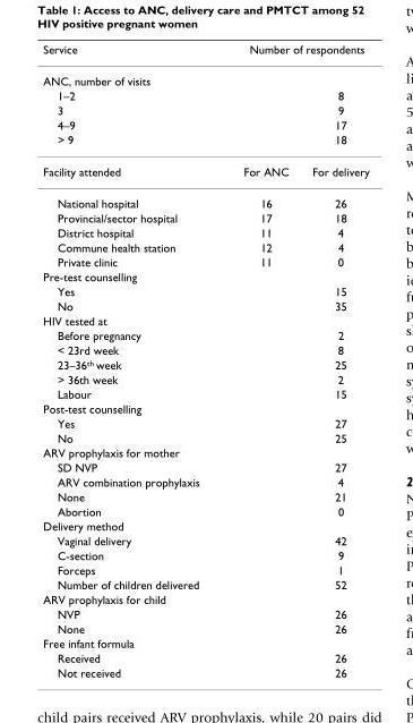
<table><thead><tr><td rowspan="2">Service ANC, number of visits</td><td colspan="2">Number of respondents</td></tr><tr><td></td><td></td></tr></thead><tbody><tr><td>1–2</td><td></td><td>8</td></tr><tr><td>3</td><td></td><td>9</td></tr><tr><td>4–9</td><td></td><td>17</td></tr><tr><td>&gt; 9</td><td></td><td>18</td></tr><tr><td>Facility attended</td><td>For ANC</td><td>For delivery</td></tr><tr><td>National hospital</td><td>16</td><td>26</td></tr><tr><td>Provincial/sector hospital</td><td>17</td><td>18</td></tr><tr><td>District hospital</td><td>11</td><td>4</td></tr><tr><td>Commune health station</td><td>12</td><td>4</td></tr><tr><td>Private clinic</td><td>11</td><td>0</td></tr><tr><td colspan="3">Pre-test counselling</td></tr><tr><td>Yes</td><td></td><td>15</td></tr><tr><td>No</td><td></td><td>35</td></tr><tr><td colspan="3">HIV tested at</td></tr><tr><td>Before pregnancy</td><td></td><td>2</td></tr><tr><td>&lt; 23rd week</td><td></td><td>8</td></tr><tr><td>23–36<sup>th</sup> week</td><td></td><td>25</td></tr><tr><td>&gt; 36th week</td><td></td><td>2</td></tr><tr><td>Labour</td><td></td><td>15</td></tr><tr><td colspan="3">Post-test counselling</td></tr><tr><td>Yes</td><td></td><td>27</td></tr><tr><td>No</td><td></td><td>25</td></tr><tr><td colspan="3">ARV prophylaxis for mother</td></tr><tr><td>SD NVP</td><td></td><td>27</td></tr><tr><td>ARV combination prophylaxis</td><td></td><td>4</td></tr><tr><td>None</td><td></td><td>21</td></tr><tr><td>Abortion</td><td></td><td>0</td></tr><tr><td colspan="3">Delivery method</td></tr><tr><td>Vaginal delivery</td><td></td><td>42</td></tr><tr><td>C-section</td><td></td><td>9</td></tr><tr><td>Forceps</td><td></td><td>1</td></tr><tr><td>Number of children delivered</td><td></td><td>52</td></tr><tr><td colspan="3">ARV prophylaxis for child</td></tr><tr><td>NVP</td><td></td><td>26</td></tr><tr><td>None</td><td></td><td>26</td></tr><tr><td colspan="3">Free infant formula</td></tr><tr><td>Received</td><td></td><td>26</td></tr><tr><td>Not received</td><td></td><td>26</td></tr></tbody></table>